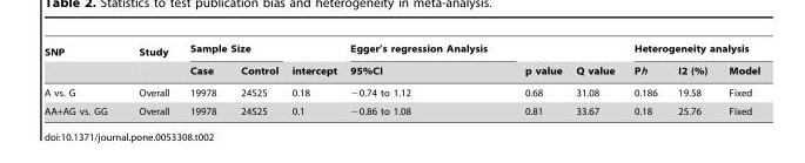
<table><thead><tr><td rowspan="2">SNP</td><td rowspan="2">Study</td><td colspan="2">Sample Size</td><td rowspan="2">intercept</td><td rowspan="2">Egger’s regression Analysis 95%CI</td><td rowspan="2">p value</td><td rowspan="2">Q value</td><td colspan="3">Heterogeneity analysis</td></tr><tr><td>Case</td><td>Control</td><td>Ph</td><td>I2 (%)</td><td>Model</td></tr></thead><tbody><tr><td>A vs. G</td><td>Overall</td><td>19978</td><td>24525</td><td>0.18</td><td>−0.74 to 1.12</td><td>0.68</td><td>31.08</td><td>0.186</td><td>19.58</td><td>Fixed</td></tr><tr><td>AA+AG vs. GG</td><td>Overall</td><td>19978</td><td>24525</td><td>0.1</td><td>−0.86 to 1.08</td><td>0.81</td><td>33.67</td><td>0.18</td><td>25.76</td><td>Fixed</td></tr></tbody></table>